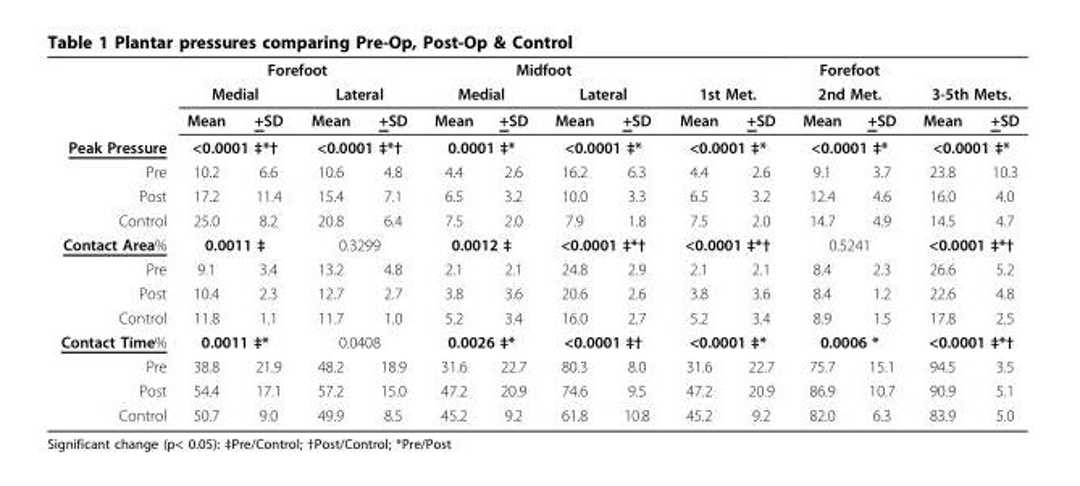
<table><thead><tr><td rowspan="3"></td><td colspan="4">Forefoot</td><td colspan="4">Midfoot</td><td colspan="6">Forefoot</td></tr><tr><td colspan="2">Medial</td><td colspan="2">Lateral</td><td colspan="2">Medial</td><td colspan="2">Lateral</td><td colspan="2">1st Met.</td><td colspan="2">2nd Met.</td><td colspan="2">3-5th Mets.</td></tr><tr><td>Mean</td><td>+SD</td><td>Mean</td><td>+SD</td><td>Mean</td><td>+SD</td><td>Mean</td><td>+SD</td><td>Mean</td><td>+SD</td><td>Mean</td><td>+SD</td><td>Mean</td><td>+SD</td></tr></thead><tbody><tr><td>Peak Pressure</td><td colspan="2">&lt;0.0001 ‡*†</td><td colspan="2">&lt;0.0001 ‡*†</td><td colspan="2">0.0001 ‡*</td><td colspan="2">&lt;0.0001 ‡*</td><td colspan="2">&lt;0.0001 ‡*</td><td colspan="2">&lt;0.0001 ‡*</td><td colspan="2">&lt;0.0001 ‡*</td></tr><tr><td>Pre</td><td>10.2</td><td>6.6</td><td>10.6</td><td>4.8</td><td>4.4</td><td>2.6</td><td>16.2</td><td>6.3</td><td>4.4</td><td>2.6</td><td>9.1</td><td>3.7</td><td>23.8</td><td>10.3</td></tr><tr><td>Post</td><td>17.2</td><td>11.4</td><td>15.4</td><td>7.1</td><td>6.5</td><td>3.2</td><td>10.0</td><td>3.3</td><td>6.5</td><td>3.2</td><td>12.4</td><td>4.6</td><td>16.0</td><td>4.0</td></tr><tr><td>Control</td><td>25.0</td><td>8.2</td><td>20.8</td><td>6.4</td><td>7.5</td><td>2.0</td><td>7.9</td><td>1.8</td><td>7.5</td><td>2.0</td><td>14.7</td><td>4.9</td><td>14.5</td><td>4.7</td></tr><tr><td>Contact Area%</td><td colspan="2">0.0011 ‡</td><td colspan="2">0.3299</td><td colspan="2">0.0012 ‡</td><td colspan="2">&lt;0.0001 ‡*†</td><td colspan="2">&lt;0.0001 ‡*†</td><td colspan="2">0.5241</td><td colspan="2">&lt;0.0001 ‡*†</td></tr><tr><td>Pre</td><td>9.1</td><td>3.4</td><td>13.2</td><td>4.8</td><td>2.1</td><td>2.1</td><td>24.8</td><td>2.9</td><td>2.1</td><td>2.1</td><td>8.4</td><td>2.3</td><td>26.6</td><td>5.2</td></tr><tr><td>Post</td><td>10.4</td><td>2.3</td><td>12.7</td><td>2.7</td><td>3.8</td><td>3.6</td><td>20.6</td><td>2.6</td><td>3.8</td><td>3.6</td><td>8.4</td><td>1.2</td><td>22.6</td><td>4.8</td></tr><tr><td>Control</td><td>11.8</td><td>1.1</td><td>11.7</td><td>1.0</td><td>5.2</td><td>3.4</td><td>16.0</td><td>2.7</td><td>5.2</td><td>3.4</td><td>8.9</td><td>1.5</td><td>17.8</td><td>2.5</td></tr><tr><td>Contact Time%</td><td colspan="2">0.0011 ‡*</td><td colspan="2">0.0408</td><td colspan="2">0.0026 ‡*</td><td colspan="2">&lt;0.0001 ‡†</td><td colspan="2">&lt;0.0001 ‡*</td><td colspan="2">0.0006 *</td><td colspan="2">&lt;0.0001 ‡*†</td></tr><tr><td>Pre</td><td>38.8</td><td>21.9</td><td>48.2</td><td>18.9</td><td>31.6</td><td>22.7</td><td>80.3</td><td>8.0</td><td>31.6</td><td>22.7</td><td>75.7</td><td>15.1</td><td>94.5</td><td>3.5</td></tr><tr><td>Post</td><td>54.4</td><td>17.1</td><td>57.2</td><td>15.0</td><td>47.2</td><td>20.9</td><td>74.6</td><td>9.5</td><td>47.2</td><td>20.9</td><td>86.9</td><td>10.7</td><td>90.9</td><td>5.1</td></tr><tr><td>Control</td><td>50.7</td><td>9.0</td><td>49.9</td><td>8.5</td><td>45.2</td><td>9.2</td><td>61.8</td><td>10.8</td><td>45.2</td><td>9.2</td><td>82.0</td><td>6.3</td><td>83.9</td><td>5.0</td></tr></tbody></table>